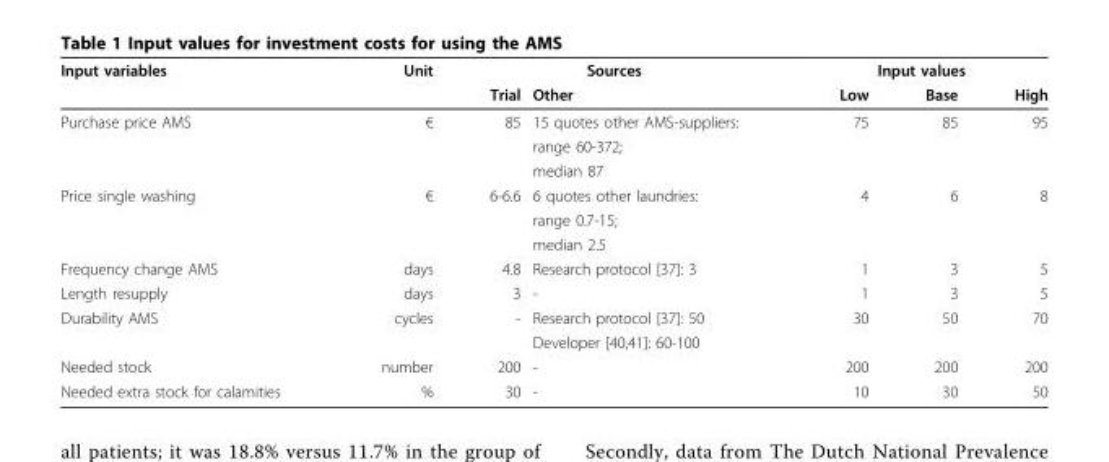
<table><thead><tr><td rowspan="2">Input variables</td><td rowspan="2">Unit</td><td colspan="2">Sources</td><td colspan="3">Input values</td></tr><tr><td>Trial</td><td>Other</td><td>Low</td><td>Base</td><td>High</td></tr></thead><tbody><tr><td rowspan="3">Purchase price AMS</td><td>€</td><td>85</td><td>15 quotes other AMS-suppliers:</td><td>75</td><td>85</td><td>95</td></tr><tr><td></td><td></td><td>range 60-372;</td><td></td><td></td><td></td></tr><tr><td></td><td></td><td>median 87</td><td></td><td></td><td></td></tr><tr><td rowspan="3">Price single washing</td><td>€</td><td>6-6.6</td><td>6 quotes other laundries:</td><td>4</td><td>6</td><td>8</td></tr><tr><td></td><td></td><td>range 0.7-15;</td><td></td><td></td><td></td></tr><tr><td></td><td></td><td>median 2.5</td><td></td><td></td><td></td></tr><tr><td>Frequency change AMS</td><td>days</td><td>4.8</td><td>Research protocol [37]: 3</td><td>1</td><td>3</td><td>5</td></tr><tr><td>Length resupply</td><td>days</td><td>3</td><td>-</td><td>1</td><td>3</td><td>5</td></tr><tr><td rowspan="2">Durability AMS</td><td>cycles</td><td>-</td><td>Research protocol [37]: 50</td><td>30</td><td>50</td><td>70</td></tr><tr><td></td><td></td><td>Developer [40,41]: 60-100</td><td></td><td></td><td></td></tr><tr><td>Needed stock</td><td>number</td><td>200</td><td>-</td><td>200</td><td>200</td><td>200</td></tr><tr><td>Needed extra stock for calamities</td><td>%</td><td>30</td><td>-</td><td>10</td><td>30</td><td>50</td></tr></tbody></table>